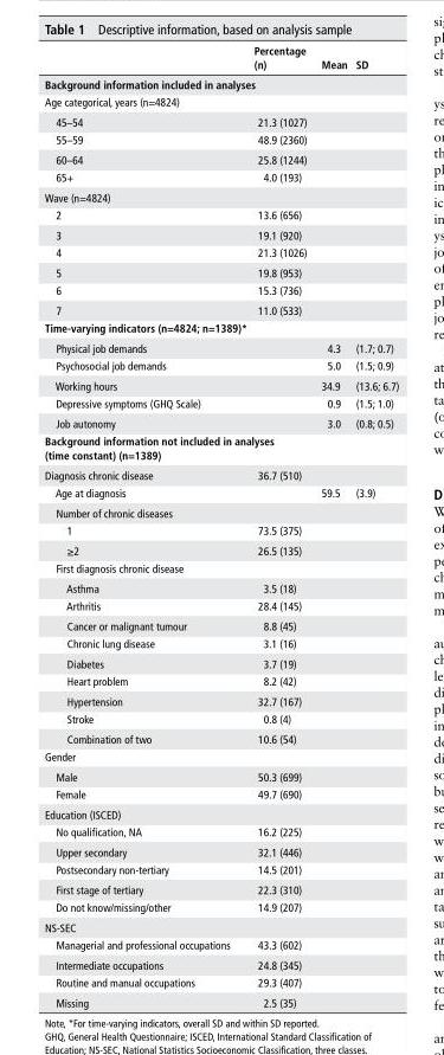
<table><thead><tr><td></td><td>Percentage (n)</td><td>Mean</td><td>sd</td></tr></thead><tbody><tr><td colspan="4">background information included in analyses</td></tr><tr><td colspan="4">Age categorical, years (n=4824)</td></tr><tr><td>45–54</td><td>21.3 (1027)</td><td></td><td></td></tr><tr><td>55–59</td><td>48.9 (2360)</td><td></td><td></td></tr><tr><td>60–64</td><td>25.8 (1244)</td><td></td><td></td></tr><tr><td>65+</td><td>4.0 (193)</td><td></td><td></td></tr><tr><td colspan="4">Wave (n=4824)</td></tr><tr><td>2</td><td>13.6 (656)</td><td></td><td></td></tr><tr><td>3</td><td>19.1 (920)</td><td></td><td></td></tr><tr><td>4</td><td>21.3 (1026)</td><td></td><td></td></tr><tr><td>5</td><td>19.8 (953)</td><td></td><td></td></tr><tr><td>6</td><td>15.3 (736)</td><td></td><td></td></tr><tr><td>7</td><td>11.0 (533)</td><td></td><td></td></tr><tr><td colspan="4">Time-varying indicators (n=4824; n=1389)*</td></tr><tr><td>Physical job demands</td><td></td><td>4.3</td><td>(1.7; 0.7)</td></tr><tr><td>Psychosocial job demands</td><td></td><td>5.0</td><td>(1.5; 0.9)</td></tr><tr><td>Working hours</td><td></td><td>34.9</td><td>(13.6; 6.7)</td></tr><tr><td>Depressive symptoms (GHQ Scale)</td><td></td><td>0.9</td><td>(1.5; 1.0)</td></tr><tr><td>Job autonomy</td><td></td><td>3.0</td><td>(0.8; 0.5)</td></tr><tr><td colspan="4">background information not included in analyses (time constant) (n=1389)</td></tr><tr><td>Diagnosis chronic disease</td><td>36.7 (510)</td><td></td><td></td></tr><tr><td>Age at diagnosis</td><td></td><td>59.5</td><td>(3.9)</td></tr><tr><td colspan="4">Number of chronic diseases</td></tr><tr><td>1</td><td>73.5 (375)</td><td></td><td></td></tr><tr><td>≥2</td><td>26.5 (135)</td><td></td><td></td></tr><tr><td colspan="4">First diagnosis chronic disease</td></tr><tr><td>Asthma</td><td>3.5 (18)</td><td></td><td></td></tr><tr><td>Arthritis</td><td>28.4 (145)</td><td></td><td></td></tr><tr><td>Cancer or malignant tumour</td><td>8.8 (45)</td><td></td><td></td></tr><tr><td>Chronic lung disease</td><td>3.1 (16)</td><td></td><td></td></tr><tr><td>Diabetes</td><td>3.7 (19)</td><td></td><td></td></tr><tr><td>Heart problem</td><td>8.2 (42)</td><td></td><td></td></tr><tr><td>Hypertension</td><td>32.7 (167)</td><td></td><td></td></tr><tr><td>Stroke</td><td>0.8 (4)</td><td></td><td></td></tr><tr><td>Combination of two</td><td>10.6 (54)</td><td></td><td></td></tr><tr><td colspan="4">Gender</td></tr><tr><td>Male</td><td>50.3 (699)</td><td></td><td></td></tr><tr><td>Female</td><td>49.7 (690)</td><td></td><td></td></tr><tr><td colspan="4">Education (ISCED)</td></tr><tr><td>No qualification, NA</td><td>16.2 (225)</td><td></td><td></td></tr><tr><td>Upper secondary</td><td>32.1 (446)</td><td></td><td></td></tr><tr><td>Postsecondary non-tertiary</td><td>14.5 (201)</td><td></td><td></td></tr><tr><td>First stage of tertiary</td><td>22.3 (310)</td><td></td><td></td></tr><tr><td>Do not know/missing/other</td><td>14.9 (207)</td><td></td><td></td></tr><tr><td colspan="4">NS-SEC</td></tr><tr><td>Managerial and professional occupations</td><td>43.3 (602)</td><td></td><td></td></tr><tr><td>Intermediate occupations</td><td>24.8 (345)</td><td></td><td></td></tr><tr><td>Routine and manual occupations</td><td>29.3 (407)</td><td></td><td></td></tr><tr><td>Missing</td><td>2.5 (35)</td><td></td><td></td></tr></tbody></table>